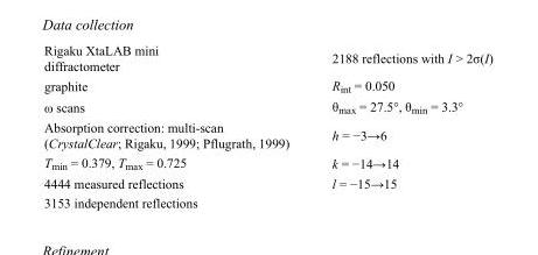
<table><tbody><tr><td>Rigaku XtaLAB mini diffractometer</td><td>2188 reflections with I &gt; 2σ(I)</td></tr><tr><td>graphite</td><td>R<sub>int</sub> = 0.050</td></tr><tr><td>ω scans</td><td>θ<sub>max</sub> = 27.5°, θ<sub>min</sub> = 3.3°</td></tr><tr><td>Absorption correction: multi-scan (CrystalClear; Rigaku, 1999; Pflugrath, 1999)</td><td>h = −3→6</td></tr><tr><td>T<sub>min</sub> = 0.379, T<sub>max</sub> = 0.725</td><td>k = −14→14</td></tr><tr><td>4444 measured reflections</td><td>l = −15→15</td></tr><tr><td>3153 independent reflections</td><td></td></tr></tbody></table>